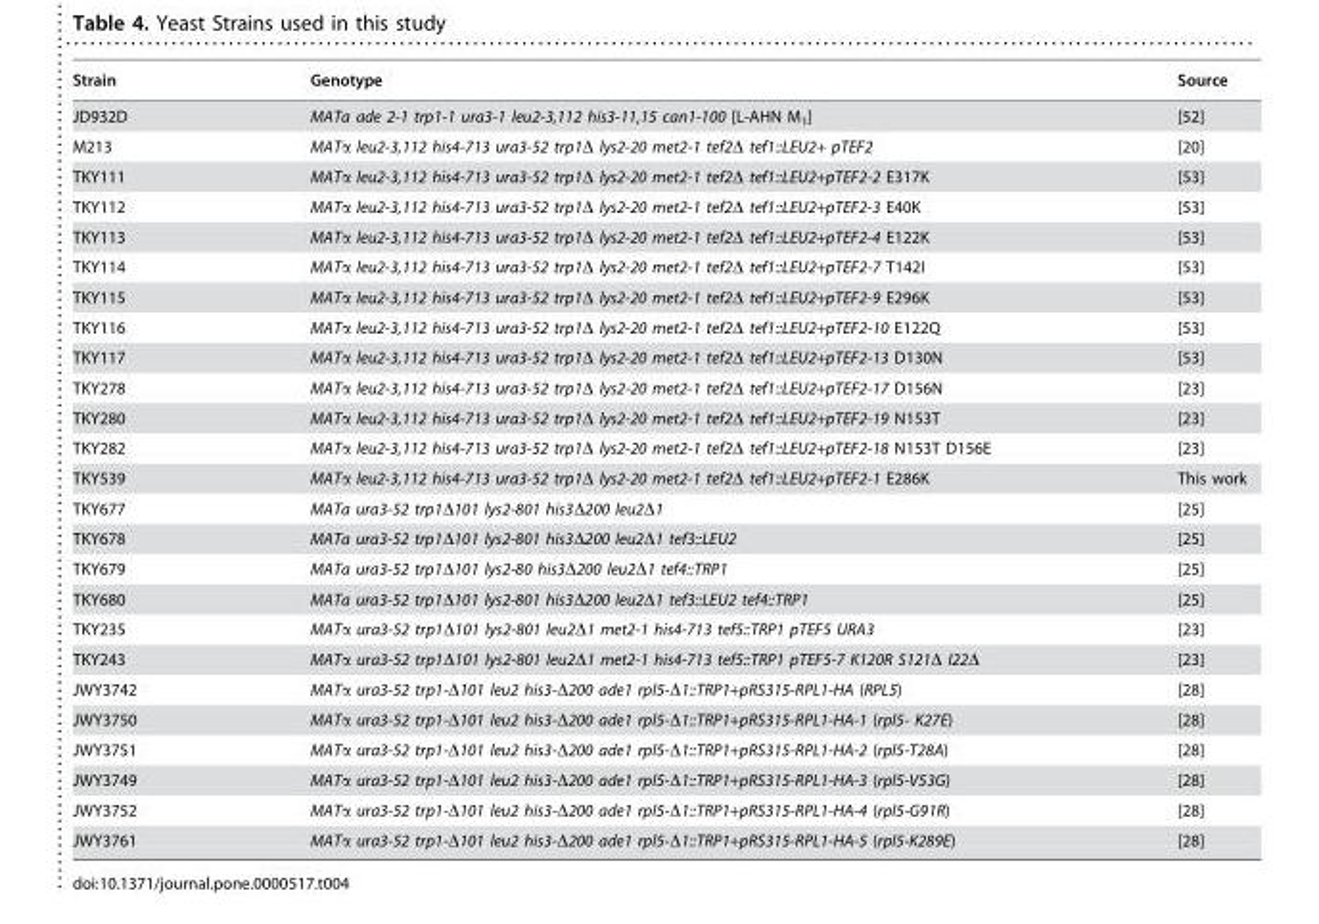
<table><thead><tr><td>Strain</td><td>Genotype</td><td>Source</td></tr></thead><tbody><tr><td>JD932D</td><td>MATa ade 2-1 trp1-1 ura3-1 leu2-3,112 his3-11,15 can1-100 [L-AHN M<sub>1</sub>]</td><td>[52]</td></tr><tr><td>M213</td><td>MATα leu2-3,112 his4-713 ura3-52 trp1Δ lys2-20 met2-1 tef2Δ tef1::LEU2+ pTEF2</td><td>[20]</td></tr><tr><td>TKY111</td><td>MATα leu2-3,112 his4-713 ura3-52 trp1Δ lys2-20 met2-1 tef2Δ tef1::LEU2+pTEF2-2 E317K</td><td>[53]</td></tr><tr><td>TKY112</td><td>MATα leu2-3,112 his4-713 ura3-52 trp1Δ lys2-20 met2-1 tef2Δ tef1::LEU2+pTEF2-3 E40K</td><td>[53]</td></tr><tr><td>TKY113</td><td>MATα leu2-3,112 his4-713 ura3-52 trp1Δ lys2-20 met2-1 tef2Δ tef1::LEU2+pTEF2-4 E122K</td><td>[53]</td></tr><tr><td>TKY114</td><td>MATα leu2-3,112 his4-713 ura3-52 trp1Δ lys2-20 met2-1 tef2Δ tef1::LEU2+pTEF2-7 T142I</td><td>[53]</td></tr><tr><td>TKY115</td><td>MATα leu2-3,112 his4-713 ura3-52 trp1Δ lys2-20 met2-1 tef2Δ tef1::LEU2+pTEF2-9 E296K</td><td>[53]</td></tr><tr><td>TKY116</td><td>MATα leu2-3,112 his4-713 ura3-52 trp1Δ lys2-20 met2-1 tef2Δ tef1::LEU2+pTEF2-10 E122Q</td><td>[53]</td></tr><tr><td>TKY117</td><td>MATα leu2-3,112 his4-713 ura3-52 trp1Δ lys2-20 met2-1 tef2Δ tef1::LEU2+pTEF2-13 D130N</td><td>[53]</td></tr><tr><td>TKY278</td><td>MATα leu2-3,112 his4-713 ura3-52 trp1Δ lys2-20 met2-1 tef2Δ tef1::LEU2+pTEF2-17 D156N</td><td>[23]</td></tr><tr><td>TKY280</td><td>MATα leu2-3,112 his4-713 ura3-52 trp1Δ lys2-20 met2-1 tef2Δ tef1::LEU2+pTEF2-19 N153T</td><td>[23]</td></tr><tr><td>TKY282</td><td>MATα leu2-3,112 his4-713 ura3-52 trp1Δ lys2-20 met2-1 tef2Δ tef1::LEU2+pTEF2-18 N153T D156E</td><td>[23]</td></tr><tr><td>TKY539</td><td>MATα leu2-3,112 his4-713 ura3-52 trp1Δ lys2-20 met2-1 tef2Δ tef1::LEU2+pTEF2-1 E286K</td><td>This work</td></tr><tr><td>TKY677</td><td>MATa ura3-52 trp1Δ101 lys2-801 his3Δ200 leu2Δ1</td><td>[25]</td></tr><tr><td>TKY678</td><td>MATa ura3-52 trp1Δ101 lys2-801 his3Δ200 leu2Δ1 tef3::LEU2</td><td>[25]</td></tr><tr><td>TKY679</td><td>MATa ura3-52 trp1Δ101 lys2-80 his3Δ200 leu2Δ1 tef4::TRP1</td><td>[25]</td></tr><tr><td>TKY680</td><td>MATa ura3-52 trp1Δ101 lys2-801 his3Δ200 leu2Δ1 tef3::LEU2 tef4::TRP1</td><td>[25]</td></tr><tr><td>TKY235</td><td>MATα ura3-52 trp1Δ101 lys2-801 leu2Δ1 met2-1 his4-713 tef5::TRP1 pTEF5 URA3</td><td>[23]</td></tr><tr><td>TKY243</td><td>MATα ura3-52 trp1Δ101 lys2-801 leu2Δ1 met2-1 his4-713 tef5::TRP1 pTEF5-7 K120R S121Δ I22Δ</td><td>[23]</td></tr><tr><td>JWY3742</td><td>MATα ura3-52 trp1-Δ101 leu2 his3-Δ200 ade1 rpl5-Δ1::TRP1+pRS315-RPL1-HA (RPL5)</td><td>[28]</td></tr><tr><td>JWY3750</td><td>MATα ura3-52 trp1-Δ101 leu2 his3-Δ200 ade1 rpl5-Δ1::TRP1+pRS315-RPL1-HA-1 (rpl5- K27E)</td><td>[28]</td></tr><tr><td>JWY3751</td><td>MATα ura3-52 trp1-Δ101 leu2 his3-Δ200 ade1 rpl5-Δ1::TRP1+pRS315-RPL1-HA-2 (rpl5-T28A)</td><td>[28]</td></tr><tr><td>JWY3749</td><td>MATα ura3-52 trp1-Δ101 leu2 his3-Δ200 ade1 rpl5-Δ1::TRP1+pRS315-RPL1-HA-3 (rpl5-V53G)</td><td>[28]</td></tr><tr><td>JWY3752</td><td>MATα ura3-52 trp1-Δ101 leu2 his3-Δ200 ade1 rpl5-Δ1::TRP1+pRS315-RPL1-HA-4 (rpl5-G91R)</td><td>[28]</td></tr><tr><td>JWY3761</td><td>MATα ura3-52 trp1-Δ101 leu2 his3-Δ200 ade1 rpl5-Δ1::TRP1+pRS315-RPL1-HA-5 (rpl5-K289E)</td><td>[28]</td></tr></tbody></table>